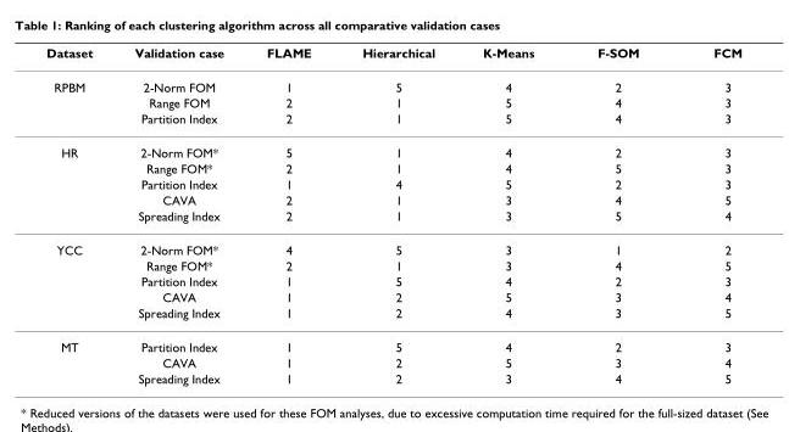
<table><thead><tr><td>Dataset</td><td>Validation case</td><td>FLAME</td><td>Hierarchical</td><td>K-Means</td><td>F-SOM</td><td>FCM</td></tr></thead><tbody><tr><td rowspan="3">RPBM</td><td>2-Norm FOM</td><td>1</td><td>5</td><td>4</td><td>2</td><td>3</td></tr><tr><td>Range FOM</td><td>2</td><td>1</td><td>5</td><td>4</td><td>3</td></tr><tr><td>Partition Index</td><td>2</td><td>1</td><td>5</td><td>4</td><td>3</td></tr><tr><td rowspan="5">HR</td><td>2-Norm FOM*</td><td>5</td><td>1</td><td>4</td><td>2</td><td>3</td></tr><tr><td>Range FOM*</td><td>2</td><td>1</td><td>4</td><td>5</td><td>3</td></tr><tr><td>Partition Index</td><td>1</td><td>4</td><td>5</td><td>2</td><td>3</td></tr><tr><td>CAVA</td><td>2</td><td>1</td><td>3</td><td>4</td><td>5</td></tr><tr><td>Spreading Index</td><td>2</td><td>1</td><td>3</td><td>5</td><td>4</td></tr><tr><td rowspan="5">YCC</td><td>2-Norm FOM*</td><td>4</td><td>5</td><td>3</td><td>1</td><td>2</td></tr><tr><td>Range FOM*</td><td>2</td><td>1</td><td>3</td><td>4</td><td>5</td></tr><tr><td>Partition Index</td><td>1</td><td>5</td><td>4</td><td>2</td><td>3</td></tr><tr><td>CAVA</td><td>1</td><td>2</td><td>5</td><td>3</td><td>4</td></tr><tr><td>Spreading Index</td><td>1</td><td>2</td><td>4</td><td>3</td><td>5</td></tr><tr><td rowspan="3">MT</td><td>Partition Index</td><td>1</td><td>5</td><td>4</td><td>2</td><td>3</td></tr><tr><td>CAVA</td><td>1</td><td>2</td><td>5</td><td>3</td><td>4</td></tr><tr><td>Spreading Index</td><td>1</td><td>2</td><td>3</td><td>4</td><td>5</td></tr></tbody></table>